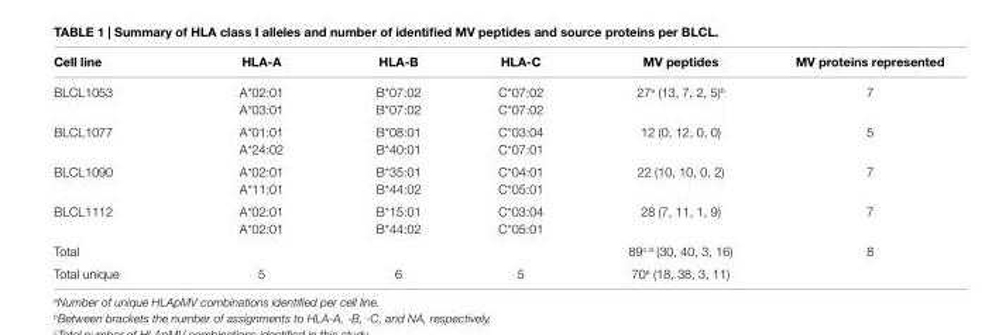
<table><thead><tr><td>cell line</td><td>hla-a</td><td>hla-B</td><td>hla-c</td><td>MV peptides</td><td>MV proteins represented</td></tr></thead><tbody><tr><td rowspan="2">BLCL1053</td><td>A*02:01</td><td>B*07:02</td><td>C*07:02</td><td rowspan="2">27<sup>a</sup> (13, 7, 2, 5)<sup>b</sup></td><td rowspan="2">7</td></tr><tr><td>A*03:01</td><td>B*07:02</td><td>C*07:02</td></tr><tr><td rowspan="2">BLCL1077</td><td>A*01:01</td><td>B*08:01</td><td>C*03:04</td><td rowspan="2">12 (0, 12, 0, 0)</td><td rowspan="2">5</td></tr><tr><td>A*24:02</td><td>B*40:01</td><td>C*07:01</td></tr><tr><td rowspan="2">BLCL1090</td><td>A*02:01</td><td>B*35:01</td><td>C*04:01</td><td rowspan="2">22 (10, 10, 0, 2)</td><td rowspan="2">7</td></tr><tr><td>A*11:01</td><td>B*44:02</td><td>C*05:01</td></tr><tr><td rowspan="2">BLCL1112</td><td>A*02:01</td><td>B*15:01</td><td>C*03:04</td><td rowspan="2">28 (7, 11, 1, 9)</td><td rowspan="2">7</td></tr><tr><td>A*02:01</td><td>B*44:02</td><td>C*05:01</td></tr><tr><td>Total</td><td></td><td></td><td></td><td>89<sup>c,d</sup> (30, 40, 3, 16)</td><td rowspan="2">8</td></tr><tr><td>Total unique</td><td>5</td><td>6</td><td>5</td><td>70<sup>e</sup> (18, 38, 3, 11)</td></tr></tbody></table>